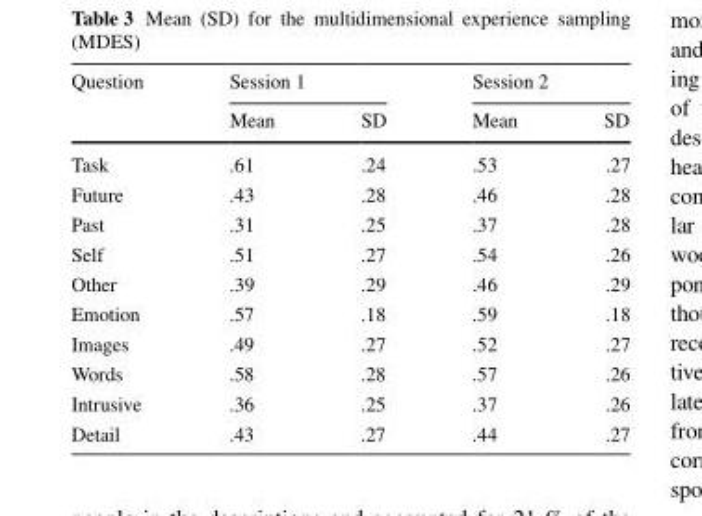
<table><thead><tr><td rowspan="2">Question</td><td colspan="2">Session 1</td><td colspan="2">Session 2</td></tr><tr><td>Mean</td><td>SD</td><td>Mean</td><td>SD</td></tr></thead><tbody><tr><td>Task</td><td>.61</td><td>.24</td><td>.53</td><td>.27</td></tr><tr><td>Future</td><td>.43</td><td>.28</td><td>.46</td><td>.28</td></tr><tr><td>Past</td><td>.31</td><td>.25</td><td>.37</td><td>.28</td></tr><tr><td>Self</td><td>.51</td><td>.27</td><td>.54</td><td>.26</td></tr><tr><td>Other</td><td>.39</td><td>.29</td><td>.46</td><td>.29</td></tr><tr><td>Emotion</td><td>.57</td><td>.18</td><td>.59</td><td>.18</td></tr><tr><td>Images</td><td>.49</td><td>.27</td><td>.52</td><td>.27</td></tr><tr><td>Words</td><td>.58</td><td>.28</td><td>.57</td><td>.26</td></tr><tr><td>Intrusive</td><td>.36</td><td>.25</td><td>.37</td><td>.26</td></tr><tr><td>Detail</td><td>.43</td><td>.27</td><td>.44</td><td>.27</td></tr></tbody></table>